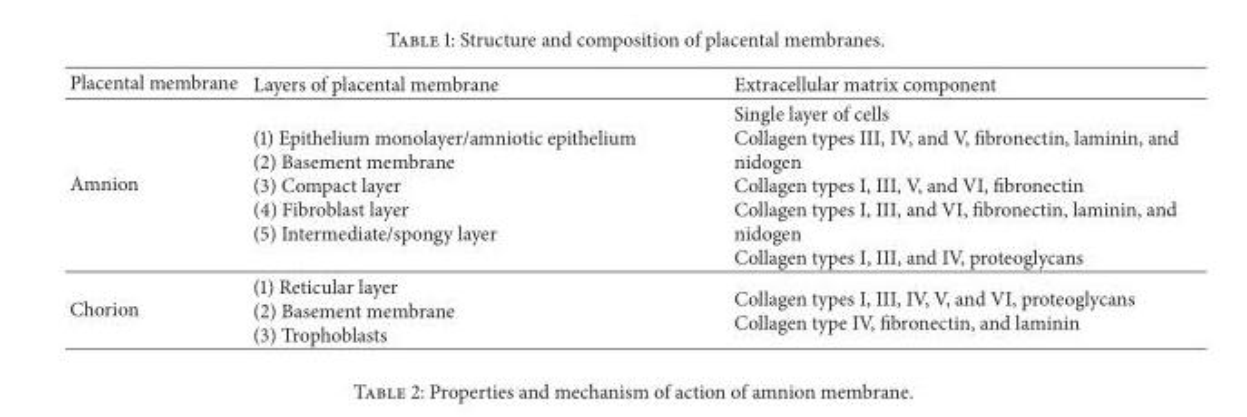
<table><thead><tr><td>Placental membrane</td><td>Layers of placental membrane</td><td>Extracellular matrix component</td></tr></thead><tbody><tr><td>Amnion</td><td>(1) Epithelium monolayer/amniotic epithelium (2) Basement membrane (3) Compact layer (4) Fibroblast layer (5) Intermediate/spongy layer</td><td>Single layer of cells Collagen types III, IV, and V, fibronectin, laminin, and nidogen Collagen types I, III, V, and VI, fibronectin Collagen types I, III, and VI, fibronectin, laminin, and nidogen Collagen types I, III, and IV, proteoglycans</td></tr><tr><td>Chorion</td><td>(1) Reticular layer (2) Basement membrane (3) Trophoblasts</td><td>Collagen types I, III, IV, V, and VI, proteoglycans Collagen type IV, fibronectin, and laminin</td></tr></tbody></table>